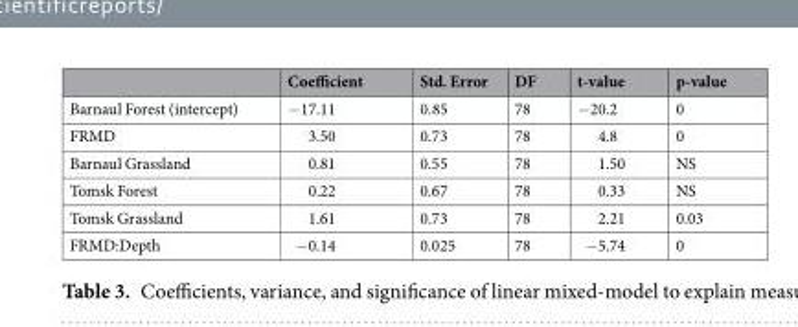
<table><thead><tr><td></td><td>Coefficient</td><td>Std. Error</td><td>DF</td><td>t-value</td><td>p-value</td></tr></thead><tbody><tr><td>Barnaul Forest (intercept)</td><td>−17.11</td><td>0.85</td><td>78</td><td>−20.2</td><td>0</td></tr><tr><td>FRMD</td><td>3.50</td><td>0.73</td><td>78</td><td>4.8</td><td>0</td></tr><tr><td>Barnaul Grassland</td><td>0.81</td><td>0.55</td><td>78</td><td>1.50</td><td>NS</td></tr><tr><td>Tomsk Forest</td><td>0.22</td><td>0.67</td><td>78</td><td>0.33</td><td>NS</td></tr><tr><td>Tomsk Grassland</td><td>1.61</td><td>0.73</td><td>78</td><td>2.21</td><td>0.03</td></tr><tr><td>FRMD:Depth</td><td>−0.14</td><td>0.025</td><td>78</td><td>−5.74</td><td>0</td></tr></tbody></table>